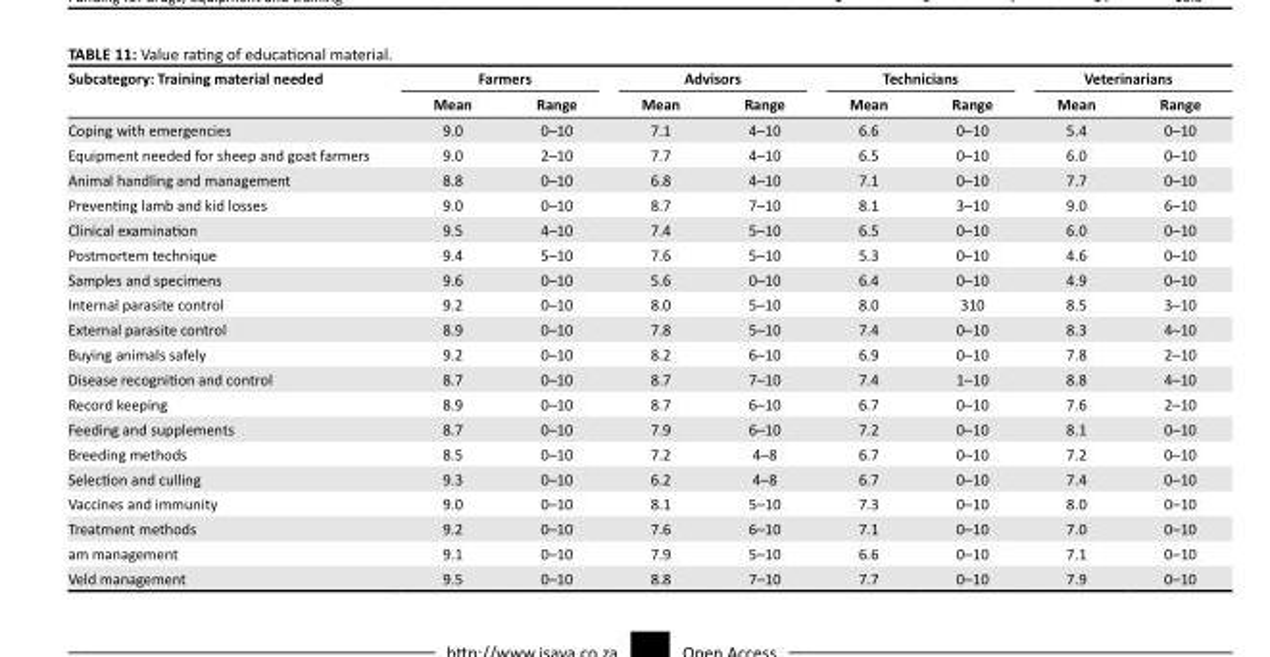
<table><thead><tr><td rowspan="2">Subcategory: Training material needed</td><td colspan="2">Farmers</td><td colspan="2">Advisors</td><td colspan="2">Technicians</td><td colspan="2">Veterinarians</td></tr><tr><td>Mean</td><td>Range</td><td>Mean</td><td>Range</td><td>Mean</td><td>Range</td><td>Mean</td><td>Range</td></tr></thead><tbody><tr><td>Coping with emergencies</td><td>9.0</td><td>0–10</td><td>7.1</td><td>4–10</td><td>6.6</td><td>0–10</td><td>5.4</td><td>0–10</td></tr><tr><td>Equipment needed for sheep and goat farmers</td><td>9.0</td><td>2–10</td><td>7.7</td><td>4–10</td><td>6.5</td><td>0–10</td><td>6.0</td><td>0–10</td></tr><tr><td>Animal handling and management</td><td>8.8</td><td>0–10</td><td>6.8</td><td>4–10</td><td>7.1</td><td>0–10</td><td>7.7</td><td>0–10</td></tr><tr><td>Preventing lamb and kid losses</td><td>9.0</td><td>0–10</td><td>8.7</td><td>7–10</td><td>8.1</td><td>3–10</td><td>9.0</td><td>6–10</td></tr><tr><td>Clinical examination</td><td>9.5</td><td>4–10</td><td>7.4</td><td>5–10</td><td>6.5</td><td>0–10</td><td>6.0</td><td>0–10</td></tr><tr><td>Postmortem technique</td><td>9.4</td><td>5–10</td><td>7.6</td><td>5–10</td><td>5.3</td><td>0–10</td><td>4.6</td><td>0–10</td></tr><tr><td>Samples and specimens</td><td>9.6</td><td>0–10</td><td>5.6</td><td>0–10</td><td>6.4</td><td>0–10</td><td>4.9</td><td>0–10</td></tr><tr><td>Internal parasite control</td><td>9.2</td><td>0–10</td><td>8.0</td><td>5–10</td><td>8.0</td><td>310</td><td>8.5</td><td>3–10</td></tr><tr><td>External parasite control</td><td>8.9</td><td>0–10</td><td>7.8</td><td>5–10</td><td>7.4</td><td>0–10</td><td>8.3</td><td>4–10</td></tr><tr><td>Buying animals safely</td><td>9.2</td><td>0–10</td><td>8.2</td><td>6–10</td><td>6.9</td><td>0–10</td><td>7.8</td><td>2–10</td></tr><tr><td>Disease recognition and control</td><td>8.7</td><td>0–10</td><td>8.7</td><td>7–10</td><td>7.4</td><td>1–10</td><td>8.8</td><td>4–10</td></tr><tr><td>Record keeping</td><td>8.9</td><td>0–10</td><td>8.7</td><td>6–10</td><td>6.7</td><td>0–10</td><td>7.6</td><td>2–10</td></tr><tr><td>Feeding and supplements</td><td>8.7</td><td>0–10</td><td>7.9</td><td>6–10</td><td>7.2</td><td>0–10</td><td>8.1</td><td>0–10</td></tr><tr><td>Breeding methods</td><td>8.5</td><td>0–10</td><td>7.2</td><td>4–8</td><td>6.7</td><td>0–10</td><td>7.2</td><td>0–10</td></tr><tr><td>Selection and culling</td><td>9.3</td><td>0–10</td><td>6.2</td><td>4–8</td><td>6.7</td><td>0–10</td><td>7.4</td><td>0–10</td></tr><tr><td>Vaccines and immunity</td><td>9.0</td><td>0–10</td><td>8.1</td><td>5–10</td><td>7.3</td><td>0–10</td><td>8.0</td><td>0–10</td></tr><tr><td>Treatment methods</td><td>9.2</td><td>0–10</td><td>7.6</td><td>6–10</td><td>7.1</td><td>0–10</td><td>7.0</td><td>0–10</td></tr><tr><td>am management</td><td>9.1</td><td>0–10</td><td>7.9</td><td>5–10</td><td>6.6</td><td>0–10</td><td>7.1</td><td>0–10</td></tr><tr><td>Veld management</td><td>9.5</td><td>0–10</td><td>8.8</td><td>7–10</td><td>7.7</td><td>0–10</td><td>7.9</td><td>0–10</td></tr></tbody></table>